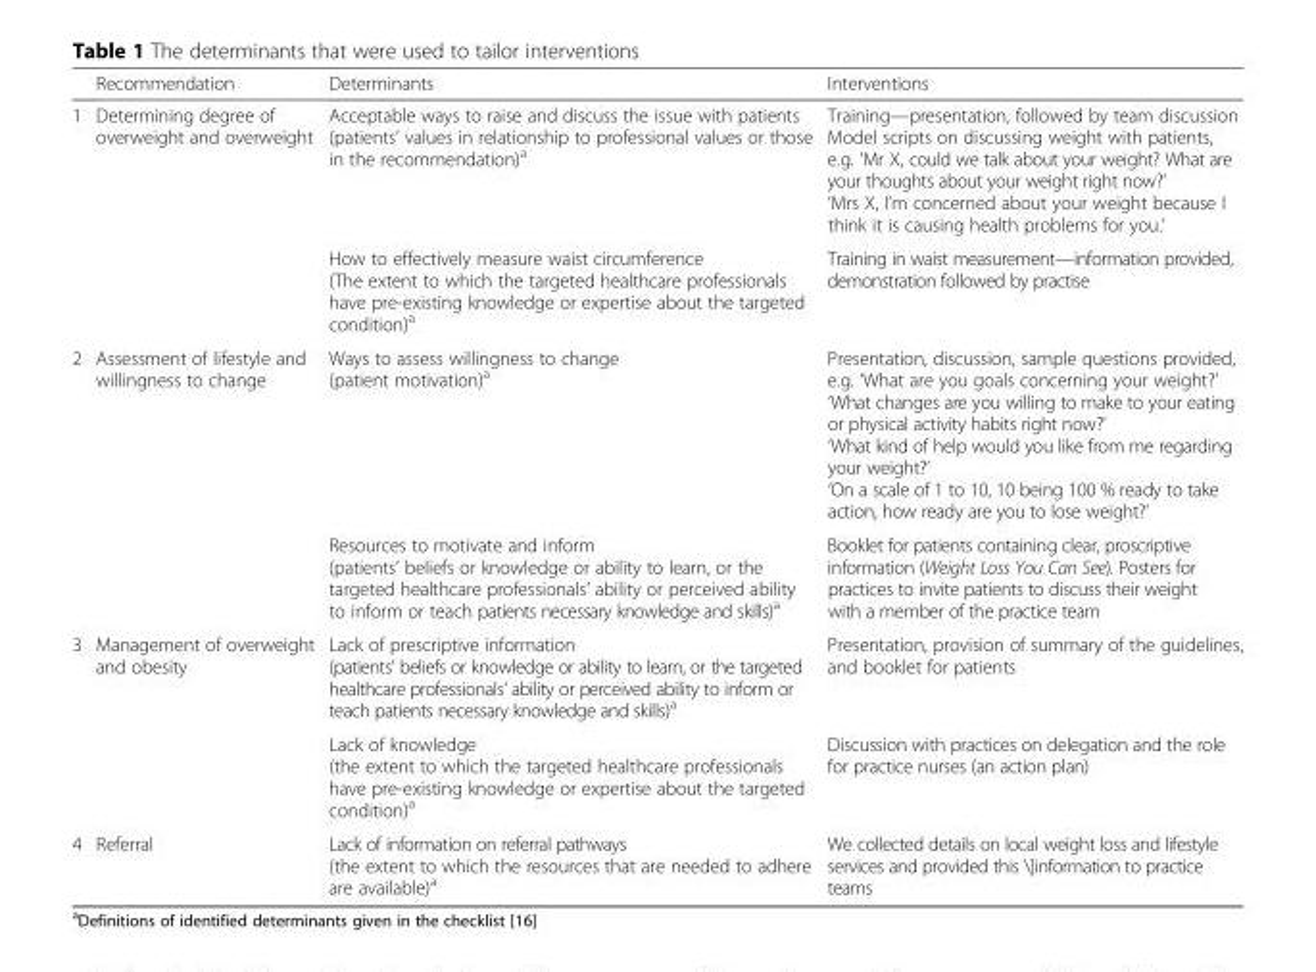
<table><thead><tr><td></td><td>Recommendation</td><td>Determinants</td><td>Interventions</td></tr></thead><tbody><tr><td rowspan="2">1</td><td rowspan="2">Determining degree of overweight and overweight</td><td>Acceptable ways to raise and discuss the issue with patients (patients’ values in relationship to professional values or those in the recommendation)<sup>a</sup></td><td>Training—presentation, followed by team discussion Model scripts on discussing weight with patients, e.g. ‘Mr X, could we talk about your weight? What are your thoughts about your weight right now?’ ‘Mrs X, I’m concerned about your weight because I think it is causing health problems for you.’</td></tr><tr><td>How to effectively measure waist circumference (The extent to which the targeted healthcare professionals have pre-existing knowledge or expertise about the targeted condition)<sup>a</sup></td><td>Training in waist measurement—information provided, demonstration followed by practise</td></tr><tr><td rowspan="2">2</td><td rowspan="2">Assessment of lifestyle and willingness to change</td><td>Ways to assess willingness to change (patient motivation)<sup>a</sup></td><td>Presentation, discussion, sample questions provided, e.g. ‘What are you goals concerning your weight?’ ‘What changes are you willing to make to your eating or physical activity habits right now?’ ‘What kind of help would you like from me regarding your weight?’ ‘On a scale of 1 to 10, 10 being 100 % ready to take action, how ready are you to lose weight?’</td></tr><tr><td>Resources to motivate and inform (patients’ beliefs or knowledge or ability to learn, or the targeted healthcare professionals’ ability or perceived ability to inform or teach patients necessary knowledge and skills)<sup>a</sup></td><td>Booklet for patients containing clear, proscriptive information (Weight Loss You Can See). Posters for practices to invite patients to discuss their weight with a member of the practice team</td></tr><tr><td rowspan="2">3</td><td rowspan="2">Management of overweight and obesity</td><td>Lack of prescriptive information (patients’ beliefs or knowledge or ability to learn, or the targeted healthcare professionals’ ability or perceived ability to inform or teach patients necessary knowledge and skills)<sup>a</sup></td><td>Presentation, provision of summary of the guidelines, and booklet for patients</td></tr><tr><td>Lack of knowledge (the extent to which the targeted healthcare professionals have pre-existing knowledge or expertise about the targeted condition)<sup>a</sup></td><td>Discussion with practices on delegation and the role for practice nurses (an action plan)</td></tr><tr><td>4</td><td>Referral</td><td>Lack of information on referral pathways (the extent to which the resources that are needed to adhere are available)<sup>a</sup></td><td>We collected details on local weight loss and lifestyle services and provided this \]information to practice teams</td></tr></tbody></table>